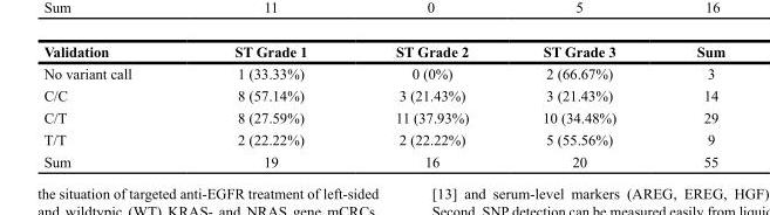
<table><thead><tr><td>Validation</td><td>ST Grade 1</td><td>ST Grade 2</td><td>ST Grade 3</td><td>Sum</td></tr></thead><tbody><tr><td>No variant call</td><td>1 (33.33%)</td><td>0 (0%)</td><td>2 (66.67%)</td><td>3</td></tr><tr><td>C/C</td><td>8 (57.14%)</td><td>3 (21.43%)</td><td>3 (21.43%)</td><td>14</td></tr><tr><td>C/T</td><td>8 (27.59%)</td><td>11 (37.93%)</td><td>10 (34.48%)</td><td>29</td></tr><tr><td>T/T</td><td>2 (22.22%)</td><td>2 (22.22%)</td><td>5 (55.56%)</td><td>9</td></tr><tr><td>Sum</td><td>19</td><td>16</td><td>20</td><td>55</td></tr></tbody></table>